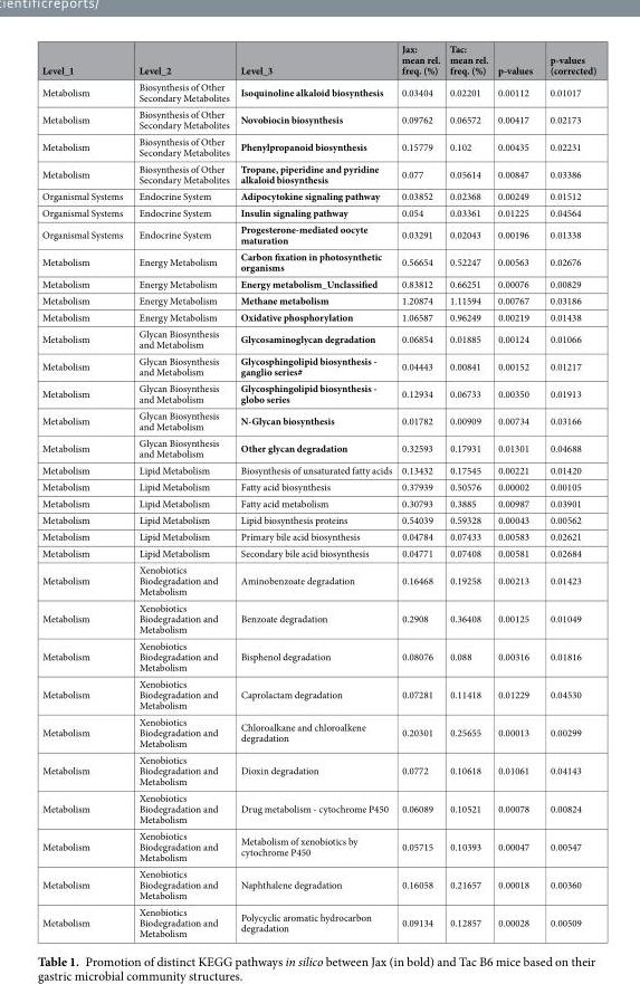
<table><thead><tr><td>Level_1</td><td>Level_2</td><td>Level_3</td><td>Jax: mean rel. freq. (%)</td><td>Tac: mean rel. freq. (%)</td><td>p-values</td><td>p-values (corrected)</td></tr></thead><tbody><tr><td>Metabolism</td><td>Biosynthesis of Other Secondary Metabolites</td><td>Isoquinoline alkaloid biosynthesis</td><td>0.03404</td><td>0.02201</td><td>0.00112</td><td>0.01017</td></tr><tr><td>Metabolism</td><td>Biosynthesis of Other Secondary Metabolites</td><td>Novobiocin biosynthesis</td><td>0.09762</td><td>0.06572</td><td>0.00417</td><td>0.02173</td></tr><tr><td>Metabolism</td><td>Biosynthesis of Other Secondary Metabolites</td><td>Phenylpropanoid biosynthesis</td><td>0.15779</td><td>0.102</td><td>0.00435</td><td>0.02231</td></tr><tr><td>Metabolism</td><td>Biosynthesis of Other Secondary Metabolites</td><td>Tropane, piperidine and pyridine alkaloid biosynthesis</td><td>0.077</td><td>0.05614</td><td>0.00847</td><td>0.03386</td></tr><tr><td>Organismal Systems</td><td>Endocrine System</td><td>Adipocytokine signaling pathway</td><td>0.03852</td><td>0.02368</td><td>0.00249</td><td>0.01512</td></tr><tr><td>Organismal Systems</td><td>Endocrine System</td><td>Insulin signaling pathway</td><td>0.054</td><td>0.03361</td><td>0.01225</td><td>0.04564</td></tr><tr><td>Organismal Systems</td><td>Endocrine System</td><td>Progesterone-mediated oocyte maturation</td><td>0.03291</td><td>0.02043</td><td>0.00196</td><td>0.01338</td></tr><tr><td>Metabolism</td><td>Energy Metabolism</td><td>Carbon fixation in photosynthetic organisms</td><td>0.56654</td><td>0.52247</td><td>0.00563</td><td>0.02676</td></tr><tr><td>Metabolism</td><td>Energy Metabolism</td><td>Energy metabolism_Unclassified</td><td>0.83812</td><td>0.66251</td><td>0.00076</td><td>0.00829</td></tr><tr><td>Metabolism</td><td>Energy Metabolism</td><td>Methane metabolism</td><td>1.20874</td><td>1.11594</td><td>0.00767</td><td>0.03186</td></tr><tr><td>Metabolism</td><td>Energy Metabolism</td><td>Oxidative phosphorylation</td><td>1.06587</td><td>0.96249</td><td>0.00219</td><td>0.01438</td></tr><tr><td>Metabolism</td><td>Glycan Biosynthesis and Metabolism</td><td>Glycosaminoglycan degradation</td><td>0.06854</td><td>0.01885</td><td>0.00124</td><td>0.01066</td></tr><tr><td>Metabolism</td><td>Glycan Biosynthesis and Metabolism</td><td>Glycosphingolipid biosynthesis - ganglio series#</td><td>0.04443</td><td>0.00841</td><td>0.00152</td><td>0.01217</td></tr><tr><td>Metabolism</td><td>Glycan Biosynthesis and Metabolism</td><td>Glycosphingolipid biosynthesis - globo series</td><td>0.12934</td><td>0.06733</td><td>0.00350</td><td>0.01913</td></tr><tr><td>Metabolism</td><td>Glycan Biosynthesis and Metabolism</td><td>N-Glycan biosynthesis</td><td>0.01782</td><td>0.00909</td><td>0.00734</td><td>0.03166</td></tr><tr><td>Metabolism</td><td>Glycan Biosynthesis and Metabolism</td><td>Other glycan degradation</td><td>0.32593</td><td>0.17931</td><td>0.01301</td><td>0.04688</td></tr><tr><td>Metabolism</td><td>Lipid Metabolism</td><td>Biosynthesis of unsaturated fatty acids</td><td>0.13432</td><td>0.17545</td><td>0.00221</td><td>0.01420</td></tr><tr><td>Metabolism</td><td>Lipid Metabolism</td><td>Fatty acid biosynthesis</td><td>0.37939</td><td>0.50576</td><td>0.00002</td><td>0.00105</td></tr><tr><td>Metabolism</td><td>Lipid Metabolism</td><td>Fatty acid metabolism</td><td>0.30793</td><td>0.3885</td><td>0.00987</td><td>0.03901</td></tr><tr><td>Metabolism</td><td>Lipid Metabolism</td><td>Lipid biosynthesis proteins</td><td>0.54039</td><td>0.59328</td><td>0.00043</td><td>0.00562</td></tr><tr><td>Metabolism</td><td>Lipid Metabolism</td><td>Primary bile acid biosynthesis</td><td>0.04784</td><td>0.07433</td><td>0.00583</td><td>0.02621</td></tr><tr><td>Metabolism</td><td>Lipid Metabolism</td><td>Secondary bile acid biosynthesis</td><td>0.04771</td><td>0.07408</td><td>0.00581</td><td>0.02684</td></tr><tr><td>Metabolism</td><td>Xenobiotics Biodegradation and Metabolism</td><td>Aminobenzoate degradation</td><td>0.16468</td><td>0.19258</td><td>0.00213</td><td>0.01423</td></tr><tr><td>Metabolism</td><td>Xenobiotics Biodegradation and Metabolism</td><td>Benzoate degradation</td><td>0.2908</td><td>0.36408</td><td>0.00125</td><td>0.01049</td></tr><tr><td>Metabolism</td><td>Xenobiotics Biodegradation and Metabolism</td><td>Bisphenol degradation</td><td>0.08076</td><td>0.088</td><td>0.00316</td><td>0.01816</td></tr><tr><td>Metabolism</td><td>Xenobiotics Biodegradation and Metabolism</td><td>Caprolactam degradation</td><td>0.07281</td><td>0.11418</td><td>0.01229</td><td>0.04530</td></tr><tr><td>Metabolism</td><td>Xenobiotics Biodegradation and Metabolism</td><td>Chloroalkane and chloroalkene degradation</td><td>0.20301</td><td>0.25655</td><td>0.00013</td><td>0.00299</td></tr><tr><td>Metabolism</td><td>Xenobiotics Biodegradation and Metabolism</td><td>Dioxin degradation</td><td>0.0772</td><td>0.10618</td><td>0.01061</td><td>0.04143</td></tr><tr><td>Metabolism</td><td>Xenobiotics Biodegradation and Metabolism</td><td>Drug metabolism - cytochrome P450</td><td>0.06089</td><td>0.10521</td><td>0.00078</td><td>0.00824</td></tr><tr><td>Metabolism</td><td>Xenobiotics Biodegradation and Metabolism</td><td>Metabolism of xenobiotics by cytochrome P450</td><td>0.05715</td><td>0.10393</td><td>0.00047</td><td>0.00547</td></tr><tr><td>Metabolism</td><td>Xenobiotics Biodegradation and Metabolism</td><td>Naphthalene degradation</td><td>0.16058</td><td>0.21657</td><td>0.00018</td><td>0.00360</td></tr><tr><td>Metabolism</td><td>Xenobiotics Biodegradation and Metabolism</td><td>Polycyclic aromatic hydrocarbon degradation</td><td>0.09134</td><td>0.12857</td><td>0.00028</td><td>0.00509</td></tr></tbody></table>